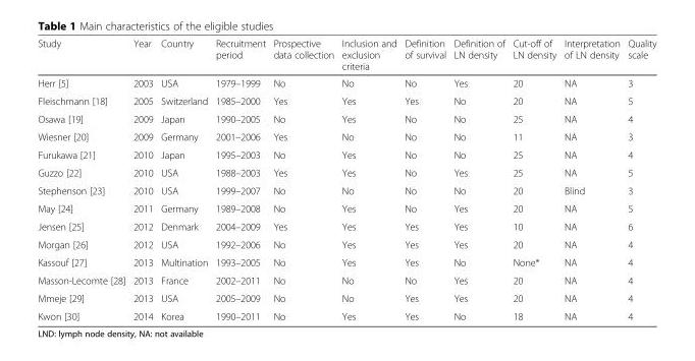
<table><thead><tr><td>Study</td><td>Year</td><td>Country</td><td>Recruitment period</td><td>Prospective data collection</td><td>Inclusion and exclusion criteria</td><td>Definition of survival</td><td>Definition of LN density</td><td>Cut-off of LN density</td><td>Interpretation of LN density</td><td>Quality scale</td></tr></thead><tbody><tr><td>Herr [5]</td><td>2003</td><td>USA</td><td>1979–1999</td><td>No</td><td>No</td><td>No</td><td>Yes</td><td>20</td><td>NA</td><td>3</td></tr><tr><td>Fleischmann [18]</td><td>2005</td><td>Switzerland</td><td>1985–2000</td><td>Yes</td><td>Yes</td><td>Yes</td><td>No</td><td>20</td><td>NA</td><td>5</td></tr><tr><td>Osawa [19]</td><td>2009</td><td>Japan</td><td>1990–2005</td><td>No</td><td>Yes</td><td>No</td><td>No</td><td>25</td><td>NA</td><td>4</td></tr><tr><td>Wiesner [20]</td><td>2009</td><td>Germany</td><td>2001–2006</td><td>Yes</td><td>No</td><td>No</td><td>No</td><td>11</td><td>NA</td><td>3</td></tr><tr><td>Furukawa [21]</td><td>2010</td><td>Japan</td><td>1995–2003</td><td>No</td><td>Yes</td><td>No</td><td>No</td><td>25</td><td>NA</td><td>4</td></tr><tr><td>Guzzo [22]</td><td>2010</td><td>USA</td><td>1988–2003</td><td>Yes</td><td>Yes</td><td>No</td><td>Yes</td><td>25</td><td>NA</td><td>5</td></tr><tr><td>Stephenson [23]</td><td>2010</td><td>USA</td><td>1999–2007</td><td>No</td><td>No</td><td>No</td><td>No</td><td>20</td><td>Blind</td><td>3</td></tr><tr><td>May [24]</td><td>2011</td><td>Germany</td><td>1989–2008</td><td>No</td><td>Yes</td><td>No</td><td>Yes</td><td>20</td><td>NA</td><td>5</td></tr><tr><td>Jensen [25]</td><td>2012</td><td>Denmark</td><td>2004–2009</td><td>Yes</td><td>Yes</td><td>Yes</td><td>Yes</td><td>10</td><td>NA</td><td>6</td></tr><tr><td>Morgan [26]</td><td>2012</td><td>USA</td><td>1992–2006</td><td>No</td><td>Yes</td><td>Yes</td><td>Yes</td><td>20</td><td>NA</td><td>4</td></tr><tr><td>Kassouf [27]</td><td>2013</td><td>Multination</td><td>1993–2005</td><td>No</td><td>Yes</td><td>Yes</td><td>No</td><td>None*</td><td>NA</td><td>4</td></tr><tr><td>Masson-Lecomte [28]</td><td>2013</td><td>France</td><td>2002–2011</td><td>No</td><td>No</td><td>No</td><td>Yes</td><td>20</td><td>NA</td><td>4</td></tr><tr><td>Mmeje [29]</td><td>2013</td><td>USA</td><td>2005–2009</td><td>No</td><td>No</td><td>Yes</td><td>Yes</td><td>20</td><td>NA</td><td>4</td></tr><tr><td>Kwon [30]</td><td>2014</td><td>Korea</td><td>1990–2011</td><td>No</td><td>Yes</td><td>Yes</td><td>No</td><td>18</td><td>NA</td><td>4</td></tr></tbody></table>